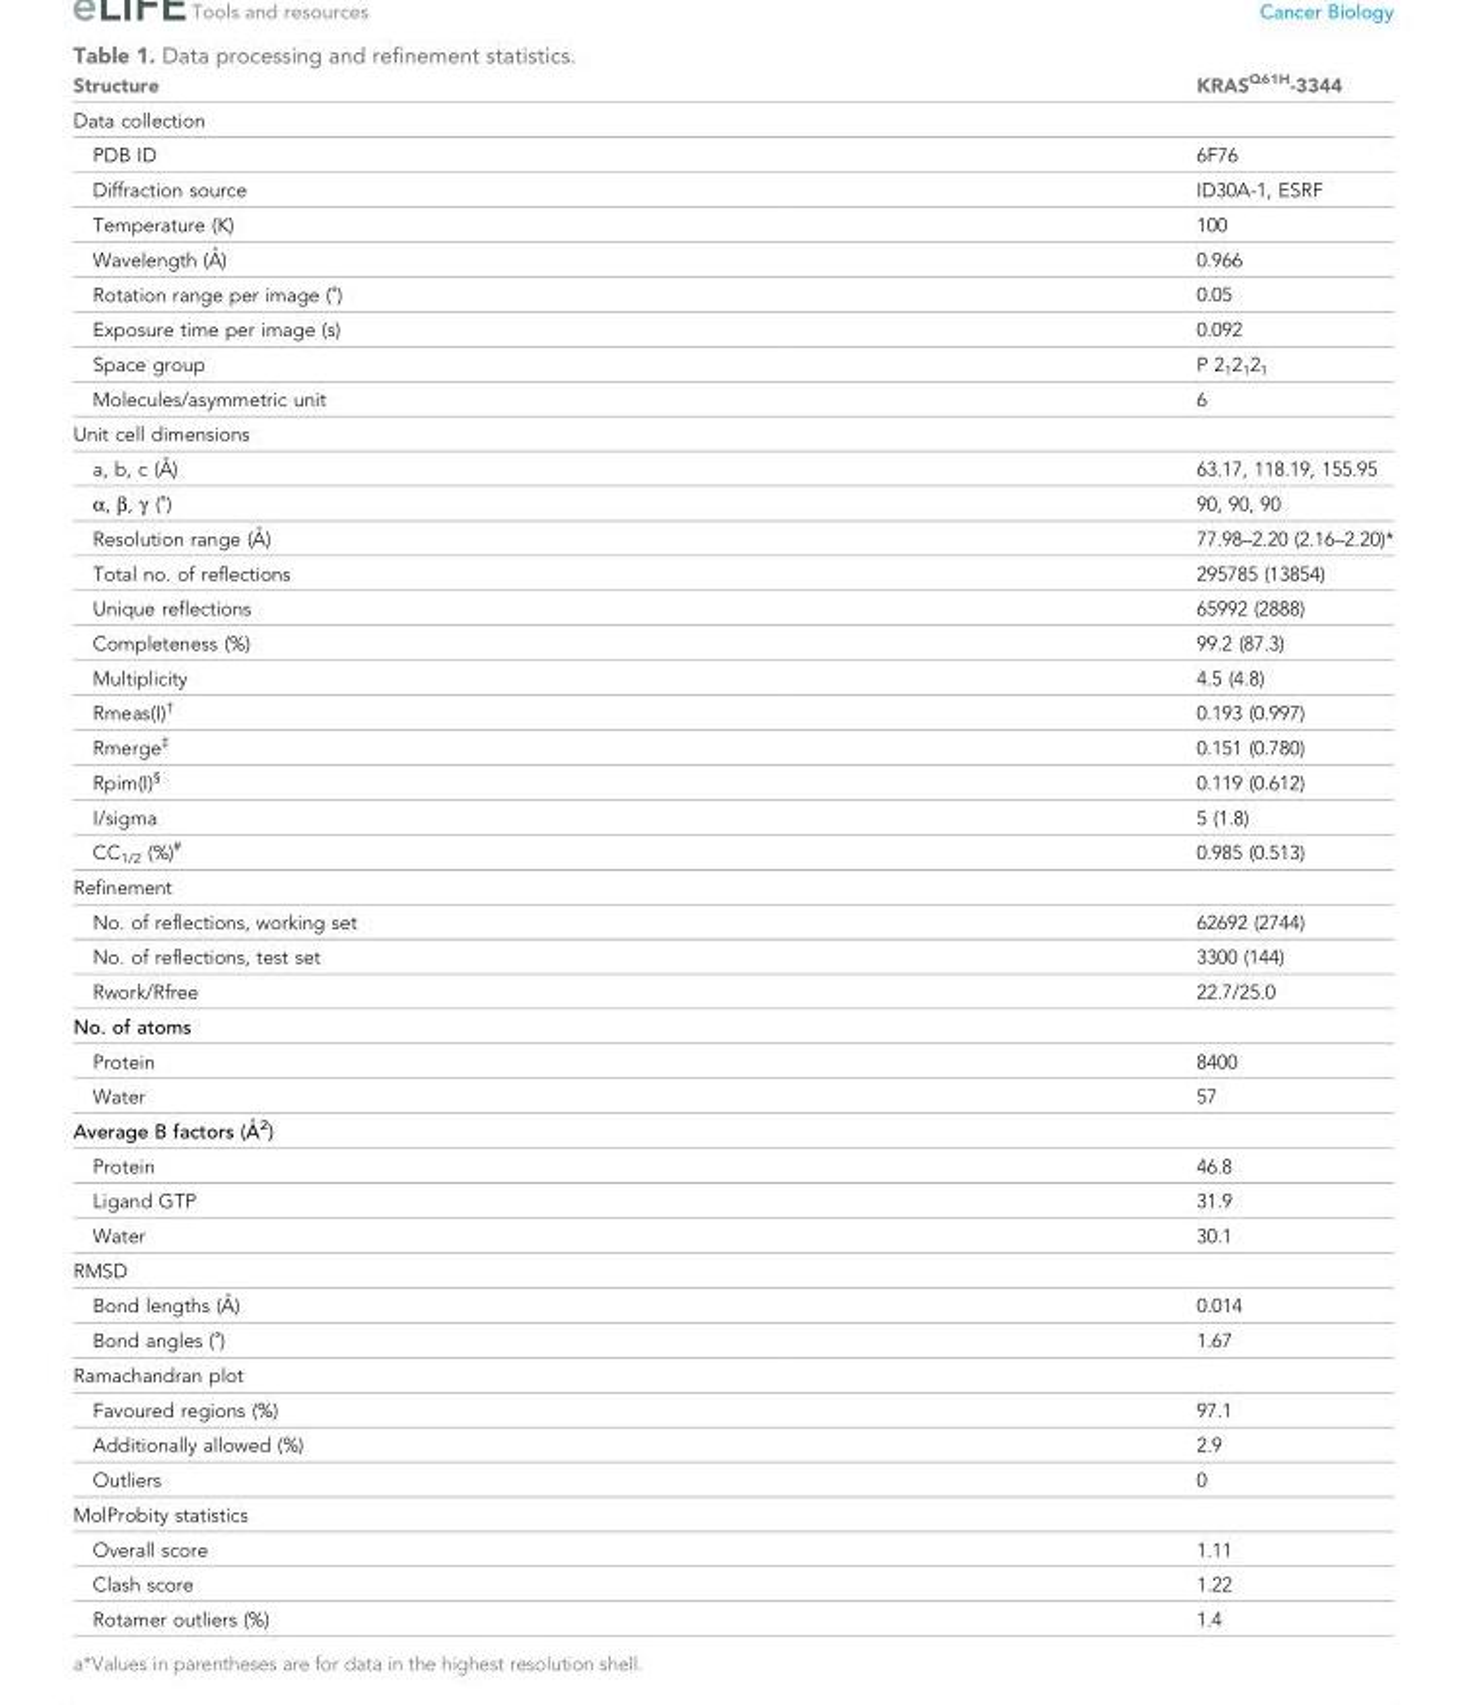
<table><thead><tr><td>Structure</td><td>KRAS<sup>Q61H</sup>-3344</td></tr></thead><tbody><tr><td colspan="2">Data collection</td></tr><tr><td>PDB ID</td><td>6F76</td></tr><tr><td>Diffraction source</td><td>ID30A-1, ESRF</td></tr><tr><td>Temperature (K)</td><td>100</td></tr><tr><td>Wavelength (A˚ )</td><td>0.966</td></tr><tr><td>Rotation range per image (˚)</td><td>0.05</td></tr><tr><td>Exposure time per image (s)</td><td>0.092</td></tr><tr><td>Space group</td><td>P 2<sub>1</sub>2<sub>1</sub>2<sub>1</sub></td></tr><tr><td>Molecules/asymmetric unit</td><td>6</td></tr><tr><td colspan="2">Unit cell dimensions</td></tr><tr><td>a, b, c (A˚ )</td><td>63.17, 118.19, 155.95</td></tr><tr><td>α, β, γ (˚)</td><td>90, 90, 90</td></tr><tr><td>Resolution range (A˚ )</td><td>77.98–2.20 (2.16–2.20)*</td></tr><tr><td>Total no. of reflections</td><td>295785 (13854)</td></tr><tr><td>Unique reflections</td><td>65992 (2888)</td></tr><tr><td>Completeness (%)</td><td>99.2 (87.3)</td></tr><tr><td>Multiplicity</td><td>4.5 (4.8)</td></tr><tr><td>Rmeas(I)<sup>†</sup></td><td>0.193 (0.997)</td></tr><tr><td>Rmerge<sup>‡</sup></td><td>0.151 (0.780)</td></tr><tr><td>Rpim(I)<sup>§</sup></td><td>0.119 (0.612)</td></tr><tr><td>I/sigma</td><td>5 (1.8)</td></tr><tr><td>CC<sub>1/2</sub> (%)<sup>#</sup></td><td>0.985 (0.513)</td></tr><tr><td colspan="2">Refinement</td></tr><tr><td>No. of reflections, working set</td><td>62692 (2744)</td></tr><tr><td>No. of reflections, test set</td><td>3300 (144)</td></tr><tr><td>Rwork/Rfree</td><td>22.7/25.0</td></tr><tr><td colspan="2">No. of atoms</td></tr><tr><td>Protein</td><td>8400</td></tr><tr><td>Water</td><td>57</td></tr><tr><td colspan="2">Average B factors (A˚ 2)</td></tr><tr><td>Protein</td><td>46.8</td></tr><tr><td>Ligand GTP</td><td>31.9</td></tr><tr><td>Water</td><td>30.1</td></tr><tr><td colspan="2">RMSD</td></tr><tr><td>Bond lengths (A˚ )</td><td>0.014</td></tr><tr><td>Bond angles (˚)</td><td>1.67</td></tr><tr><td colspan="2">Ramachandran plot</td></tr><tr><td>Favoured regions (%)</td><td>97.1</td></tr><tr><td>Additionally allowed (%)</td><td>2.9</td></tr><tr><td>Outliers</td><td>0</td></tr><tr><td colspan="2">MolProbity statistics</td></tr><tr><td>Overall score</td><td>1.11</td></tr><tr><td>Clash score</td><td>1.22</td></tr><tr><td>Rotamer outliers (%)</td><td>1.4</td></tr></tbody></table>